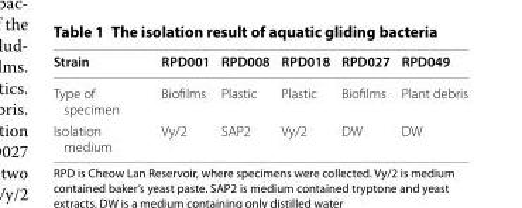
<table><thead><tr><td>Strain</td><td>RPD001</td><td>RPD008</td><td>RPD018</td><td>RPD027</td><td>RPD049</td></tr></thead><tbody><tr><td>Type of specimen</td><td>Biofilms</td><td>Plastic</td><td>Plastic</td><td>Biofilms</td><td>Plant debris</td></tr><tr><td>Isolation medium</td><td>Vy/2</td><td>SAP2</td><td>Vy/2</td><td>DW</td><td>DW</td></tr></tbody></table>